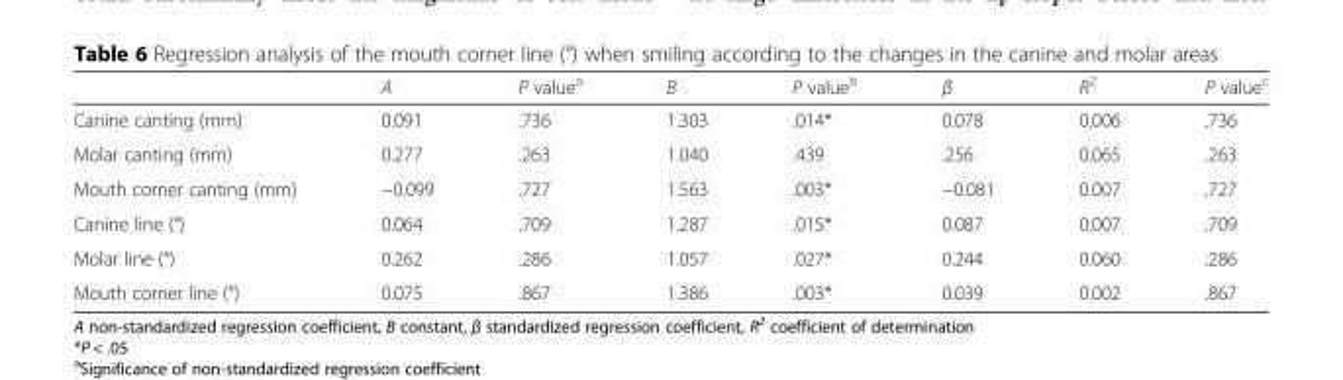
<table><thead><tr><td></td><td>A</td><td>P value<sup>a</sup></td><td>B</td><td>P value<sup>b</sup></td><td>β</td><td>R<sup>2</sup></td><td>P value<sup>c</sup></td></tr></thead><tbody><tr><td>Canine canting (mm)</td><td>0.091</td><td>.736</td><td>1.303</td><td>.014*</td><td>0.078</td><td>0.006</td><td>.736</td></tr><tr><td>Molar canting (mm)</td><td>0.277</td><td>.263</td><td>1.040</td><td>.439</td><td>.256</td><td>0.065</td><td>.263</td></tr><tr><td>Mouth corner canting (mm)</td><td>−0.099</td><td>.727</td><td>1.563</td><td>.003*</td><td>−0.081</td><td>0.007</td><td>.727</td></tr><tr><td>Canine line (°)</td><td>0.064</td><td>.709</td><td>1.287</td><td>.015*</td><td>0.087</td><td>0.007</td><td>.709</td></tr><tr><td>Molar line (°)</td><td>0.262</td><td>.286</td><td>1.057</td><td>.027*</td><td>0.244</td><td>0.060</td><td>.286</td></tr><tr><td>Mouth corner line (°)</td><td>0.075</td><td>.867</td><td>1.386</td><td>.003*</td><td>0.039</td><td>0.002</td><td>.867</td></tr></tbody></table>